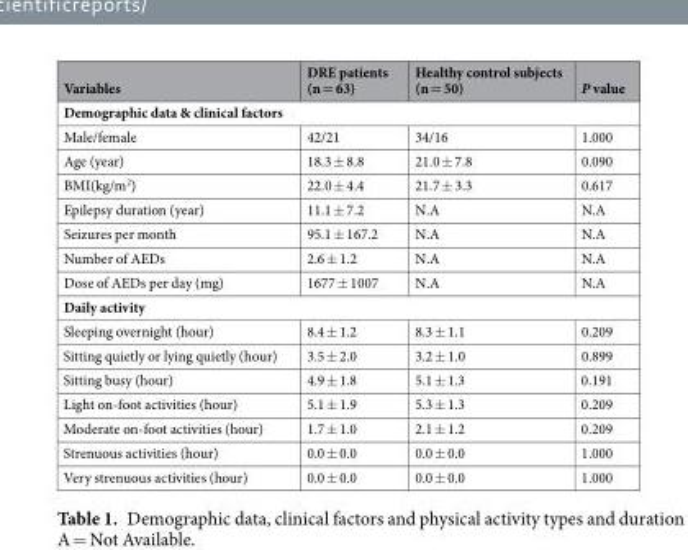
<table><thead><tr><td>Variables</td><td>DRE patients (n = 63)</td><td>Healthy control subjects (n = 50)</td><td>P value</td></tr></thead><tbody><tr><td colspan="4">Demographic data &amp; clinical factors</td></tr><tr><td>Male/female</td><td>42/21</td><td>34/16</td><td>1.000</td></tr><tr><td>Age (year)</td><td>18.3 ± 8.8</td><td>21.0 ± 7.8</td><td>0.090</td></tr><tr><td>BMI(kg/m<sup>2</sup>)</td><td>22.0 ± 4.4</td><td>21.7 ± 3.3</td><td>0.617</td></tr><tr><td>Epilepsy duration (year)</td><td>11.1 ± 7.2</td><td>N.A</td><td>N.A</td></tr><tr><td>Seizures per month</td><td>95.1 ± 167.2</td><td>N.A</td><td>N.A</td></tr><tr><td>Number of AEDs</td><td>2.6 ± 1.2</td><td>N.A</td><td>N.A</td></tr><tr><td>Dose of AEDs per day (mg)</td><td>1677 ± 1007</td><td>N.A</td><td>N.A</td></tr><tr><td colspan="4">Daily activity</td></tr><tr><td>Sleeping overnight (hour)</td><td>8.4 ± 1.2</td><td>8.3 ± 1.1</td><td>0.209</td></tr><tr><td>Sitting quietly or lying quietly (hour)</td><td>3.5 ± 2.0</td><td>3.2 ± 1.0</td><td>0.899</td></tr><tr><td>Sitting busy (hour)</td><td>4.9 ± 1.8</td><td>5.1 ± 1.3</td><td>0.191</td></tr><tr><td>Light on-foot activities (hour)</td><td>5.1 ± 1.9</td><td>5.3 ± 1.3</td><td>0.209</td></tr><tr><td>Moderate on-foot activities (hour)</td><td>1.7 ± 1.0</td><td>2.1 ± 1.2</td><td>0.209</td></tr><tr><td>Strenuous activities (hour)</td><td>0.0 ± 0.0</td><td>0.0 ± 0.0</td><td>1.000</td></tr><tr><td>Very strenuous activities (hour)</td><td>0.0 ± 0.0</td><td>0.0 ± 0.0</td><td>1.000</td></tr></tbody></table>